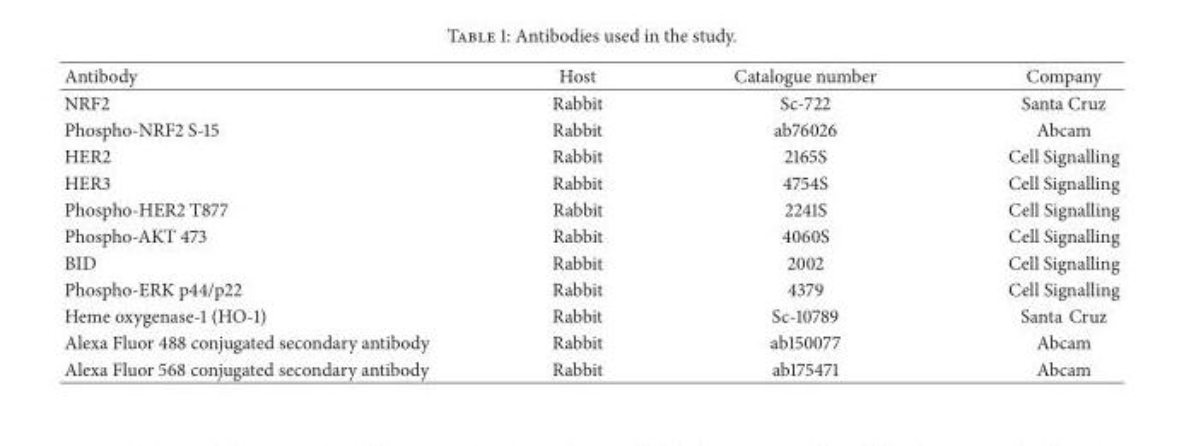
<table><thead><tr><td>Antibody</td><td>Host</td><td>Catalogue number</td><td>Company</td></tr></thead><tbody><tr><td>NRF2</td><td>Rabbit</td><td>Sc-722</td><td>Santa Cruz</td></tr><tr><td>Phospho-NRF2 S-15</td><td>Rabbit</td><td>ab76026</td><td>Abcam</td></tr><tr><td>HER2</td><td>Rabbit</td><td>2165S</td><td>Cell Signalling</td></tr><tr><td>HER3</td><td>Rabbit</td><td>4754S</td><td>Cell Signalling</td></tr><tr><td>Phospho-HER2 T877</td><td>Rabbit</td><td>2241S</td><td>Cell Signalling</td></tr><tr><td>Phospho-AKT 473</td><td>Rabbit</td><td>4060S</td><td>Cell Signalling</td></tr><tr><td>BID</td><td>Rabbit</td><td>2002</td><td>Cell Signalling</td></tr><tr><td>Phospho-ERK p44/p22</td><td>Rabbit</td><td>4379</td><td>Cell Signalling</td></tr><tr><td>Heme oxygenase-1 (HO-1)</td><td>Rabbit</td><td>Sc-10789</td><td>Santa Cruz</td></tr><tr><td>Alexa Fluor 488 conjugated secondary antibody</td><td>Rabbit</td><td>ab150077</td><td>Abcam</td></tr><tr><td>Alexa Fluor 568 conjugated secondary antibody</td><td>Rabbit</td><td>ab175471</td><td>Abcam</td></tr></tbody></table>